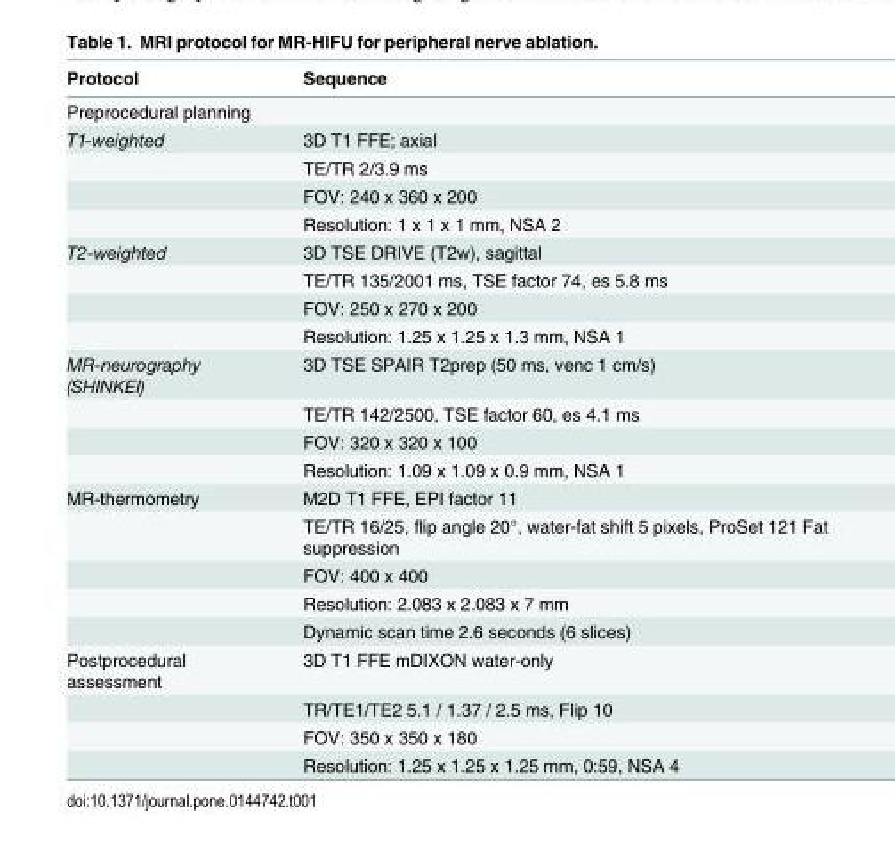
<table><thead><tr><td>Protocol</td><td>Sequence</td></tr></thead><tbody><tr><td colspan="2">Preprocedural planning</td></tr><tr><td rowspan="4">T1-weighted</td><td>3D T1 FFE; axial</td></tr><tr><td>TE/TR 2/3.9 ms</td></tr><tr><td>FOV: 240 x 360 x 200</td></tr><tr><td>Resolution: 1 x 1 x 1 mm, NSA 2</td></tr><tr><td rowspan="4">T2-weighted</td><td>3D TSE DRIVE (T2w), sagittal</td></tr><tr><td>TE/TR 135/2001 ms, TSE factor 74, es 5.8 ms</td></tr><tr><td>FOV: 250 x 270 x 200</td></tr><tr><td>Resolution: 1.25 x 1.25 x 1.3 mm, NSA 1</td></tr><tr><td rowspan="4">MR-neurography (SHINKEI)</td><td>3D TSE SPAIR T2prep (50 ms, venc 1 cm/s)</td></tr><tr><td>TE/TR 142/2500, TSE factor 60, es 4.1 ms</td></tr><tr><td>FOV: 320 x 320 x 100</td></tr><tr><td>Resolution: 1.09 x 1.09 x 0.9 mm, NSA 1</td></tr><tr><td rowspan="5">MR-thermometry</td><td>M2D T1 FFE, EPI factor 11</td></tr><tr><td>TE/TR 16/25, flip angle 20°, water-fat shift 5 pixels, ProSet 121 Fat suppression</td></tr><tr><td>FOV: 400 x 400</td></tr><tr><td>Resolution: 2.083 x 2.083 x 7 mm</td></tr><tr><td>Dynamic scan time 2.6 seconds (6 slices)</td></tr><tr><td rowspan="4">Postprocedural assessment</td><td>3D T1 FFE mDIXON water-only</td></tr><tr><td>TR/TE1/TE2 5.1 / 1.37 / 2.5 ms, Flip 10</td></tr><tr><td>FOV: 350 x 350 x 180</td></tr><tr><td>Resolution: 1.25 x 1.25 x 1.25 mm, 0:59, NSA 4</td></tr></tbody></table>